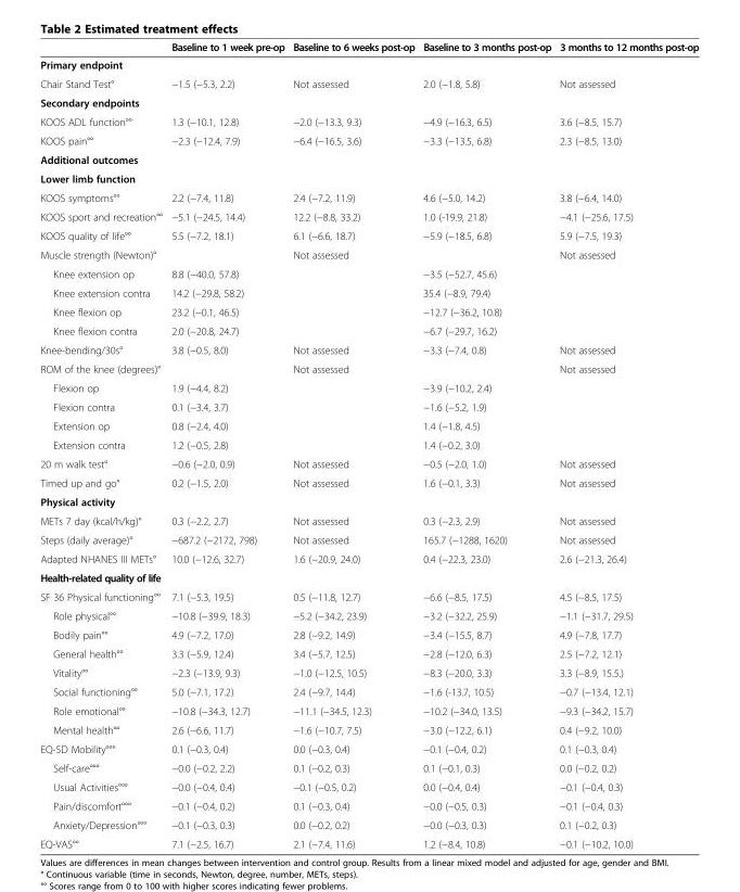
<table><thead><tr><td></td><td>Baseline to 1 week pre-op</td><td>Baseline to 6 weeks post-op</td><td>Baseline to 3 months post-op</td><td>3 months to 12 months post-op</td></tr></thead><tbody><tr><td colspan="5">Primary endpoint</td></tr><tr><td>Chair Stand Test°</td><td>−1.5 (−5.3, 2.2)</td><td>Not assessed</td><td>2.0 (−1.8, 5.8)</td><td>Not assessed</td></tr><tr><td colspan="5">Secondary endpoints</td></tr><tr><td>KOOS ADL function°°</td><td>1.3 (−10.1, 12.8)</td><td>−2.0 (−13.3, 9.3)</td><td>−4.9 (−16.3, 6.5)</td><td>3.6 (−8.5, 15.7)</td></tr><tr><td>KOOS pain°°</td><td>−2.3 (−12.4, 7.9)</td><td>−6.4 (−16.5, 3.6)</td><td>−3.3 (−13.5, 6.8)</td><td>2.3 (−8.5, 13.0)</td></tr><tr><td colspan="5">Additional outcomes</td></tr><tr><td colspan="5">Lower limb function</td></tr><tr><td>KOOS symptoms°°</td><td>2.2 (−7.4, 11.8)</td><td>2.4 (−7.2, 11.9)</td><td>4.6 (−5.0, 14.2)</td><td>3.8 (−6.4, 14.0)</td></tr><tr><td>KOOS sport and recreation°°</td><td>−5.1 (−24.5, 14.4)</td><td>12.2 (−8.8, 33.2)</td><td>1.0 (-19.9, 21.8)</td><td>−4.1 (−25.6, 17.5)</td></tr><tr><td>KOOS quality of life°°</td><td>5.5 (−7.2, 18.1)</td><td>6.1 (−6.6, 18.7)</td><td>−5.9 (−18.5, 6.8)</td><td>5.9 (−7.5, 19.3)</td></tr><tr><td>Muscle strength (Newton)°</td><td></td><td>Not assessed</td><td></td><td>Not assessed</td></tr><tr><td>Knee extension op</td><td>8.8 (−40.0, 57.8)</td><td></td><td>−3.5 (−52.7, 45.6)</td><td></td></tr><tr><td>Knee extension contra</td><td>14.2 (−29.8, 58.2)</td><td></td><td>35.4 (−8.9, 79.4)</td><td></td></tr><tr><td>Knee flexion op</td><td>23.2 (−0.1, 46.5)</td><td></td><td>−12.7 (−36.2, 10.8)</td><td></td></tr><tr><td>Knee flexion contra</td><td>2.0 (−20.8, 24.7)</td><td></td><td>−6.7 (−29.7, 16.2)</td><td></td></tr><tr><td>Knee-bending/30s°</td><td>3.8 (−0.5, 8.0)</td><td>Not assessed</td><td>−3.3 (−7.4, 0.8)</td><td>Not assessed</td></tr><tr><td>ROM of the knee (degrees)°</td><td></td><td>Not assessed</td><td></td><td>Not assessed</td></tr><tr><td>Flexion op</td><td>1.9 (−4.4, 8.2)</td><td></td><td>−3.9 (−10.2, 2.4)</td><td></td></tr><tr><td>Flexion contra</td><td>0.1 (−3.4, 3.7)</td><td></td><td>−1.6 (−5.2, 1.9)</td><td></td></tr><tr><td>Extension op</td><td>0.8 (−2.4, 4.0)</td><td></td><td>1.4 (−1.8, 4.5)</td><td></td></tr><tr><td>Extension contra</td><td>1.2 (−0.5, 2.8)</td><td></td><td>1.4 (−0.2, 3.0)</td><td></td></tr><tr><td>20 m walk test°</td><td>−0.6 (−2.0, 0.9)</td><td>Not assessed</td><td>−0.5 (−2.0, 1.0)</td><td>Not assessed</td></tr><tr><td>Timed up and go°</td><td>0.2 (−1.5, 2.0)</td><td>Not assessed</td><td>1.6 (−0.1, 3.3)</td><td>Not assessed</td></tr><tr><td colspan="5">Physical activity</td></tr><tr><td>METs 7 day (kcal/h/kg)°</td><td>0.3 (−2.2, 2.7)</td><td>Not assessed</td><td>0.3 (−2.3, 2.9)</td><td>Not assessed</td></tr><tr><td>Steps (daily average)°</td><td>−687.2 (−2172, 798)</td><td>Not assessed</td><td>165.7 (−1288, 1620)</td><td>Not assessed</td></tr><tr><td>Adapted NHANES III METs°</td><td>10.0 (−12.6, 32.7)</td><td>1.6 (−20.9, 24.0)</td><td>0.4 (−22.3, 23.0)</td><td>2.6 (−21.3, 26.4)</td></tr><tr><td colspan="5">Health-related quality of life</td></tr><tr><td>SF 36 Physical functioning°°</td><td>7.1 (−5.3, 19.5)</td><td>0.5 (−11.8, 12.7)</td><td>−6.6 (−8.5, 17.5)</td><td>4.5 (−8.5, 17.5)</td></tr><tr><td>Role physical°°</td><td>−10.8 (−39.9, 18.3)</td><td>−5.2 (−34.2, 23.9)</td><td>−3.2 (−32.2, 25.9)</td><td>−1.1 (−31.7, 29.5)</td></tr><tr><td>Bodily pain°°</td><td>4.9 (−7.2, 17.0)</td><td>2.8 (−9.2, 14.9)</td><td>−3.4 (−15.5, 8.7)</td><td>4.9 (−7.8, 17.7)</td></tr><tr><td>General health°°</td><td>3.3 (−5.9, 12.4)</td><td>3.4 (−5.7, 12.5)</td><td>−2.8 (−12.0, 6.3)</td><td>2.5 (−7.2, 12.1)</td></tr><tr><td>Vitality°°</td><td>−2.3 (−13.9, 9.3)</td><td>−1.0 (−12.5, 10.5)</td><td>−8.3 (−20.0, 3.3)</td><td>3.3 (−8.9, 15.5.)</td></tr><tr><td>Social functioning°°</td><td>5.0 (−7.1, 17.2)</td><td>2.4 (−9.7, 14.4)</td><td>−1.6 (-13.7, 10.5)</td><td>−0.7 (−13.4, 12.1)</td></tr><tr><td>Role emotional°°</td><td>−10.8 (−34.3, 12.7)</td><td>−11.1 (−34.5, 12.3)</td><td>−10.2 (−34.0, 13.5)</td><td>−9.3 (−34.2, 15.7)</td></tr><tr><td>Mental health°°</td><td>2.6 (−6.6, 11.7)</td><td>−1.6 (−10.7, 7.5)</td><td>−3.0 (−12.2, 6.1)</td><td>0.4 (−9.2, 10.0)</td></tr><tr><td>EQ-5D Mobility°°°</td><td>0.1 (−0.3, 0.4)</td><td>0.0 (−0.3, 0.4)</td><td>−0.1 (−0.4, 0.2)</td><td>0.1 (−0.3, 0.4)</td></tr><tr><td>Self-care°°°</td><td>−0.0 (−0.2, 2.2)</td><td>0.1 (−0.2, 0.3)</td><td>0.1 (−0.1, 0.3)</td><td>0.0 (−0.2, 0.2)</td></tr><tr><td>Usual Activities°°°</td><td>−0.0 (−0.4, 0.4)</td><td>−0.1 (−0.5, 0.2)</td><td>0.0 (−0.4, 0.4)</td><td>−0.1 (−0.4, 0.3)</td></tr><tr><td>Pain/discomfort°°°</td><td>−0.1 (−0.4, 0.2)</td><td>0.1 (−0.3, 0.4)</td><td>−0.0 (−0.5, 0.3)</td><td>−0.1 (−0.4, 0.3)</td></tr><tr><td>Anxiety/Depression°°°</td><td>−0.1 (−0.3, 0.3)</td><td>0.0 (−0.2, 0.2)</td><td>−0.0 (−0.3, 0.3)</td><td>0.1 (−0.2, 0.3)</td></tr><tr><td>EQ-VAS°°</td><td>7.1 (−2.5, 16.7)</td><td>2.1 (−7.4, 11.6)</td><td>1.2 (−8.4, 10.8)</td><td>−0.1 (−10.2, 10.0)</td></tr></tbody></table>